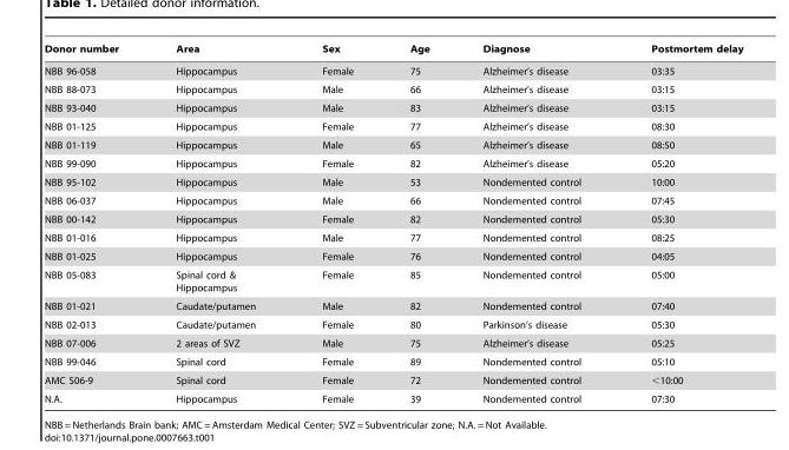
<table><thead><tr><td>Donor number</td><td>Area</td><td>Sex</td><td>Age</td><td>Diagnose</td><td>Postmortem delay</td></tr></thead><tbody><tr><td>NBB 96-058</td><td>Hippocampus</td><td>Female</td><td>75</td><td>Alzheimer’s disease</td><td>03:35</td></tr><tr><td>NBB 88-073</td><td>Hippocampus</td><td>Male</td><td>66</td><td>Alzheimer’s disease</td><td>03:15</td></tr><tr><td>NBB 93-040</td><td>Hippocampus</td><td>Male</td><td>83</td><td>Alzheimer’s disease</td><td>03:15</td></tr><tr><td>NBB 01-125</td><td>Hippocampus</td><td>Female</td><td>77</td><td>Alzheimer’s disease</td><td>08:30</td></tr><tr><td>NBB 01-119</td><td>Hippocampus</td><td>Male</td><td>65</td><td>Alzheimer’s disease</td><td>08:50</td></tr><tr><td>NBB 99-090</td><td>Hippocampus</td><td>Female</td><td>82</td><td>Alzheimer’s disease</td><td>05:20</td></tr><tr><td>NBB 95-102</td><td>Hippocampus</td><td>Male</td><td>53</td><td>Nondemented control</td><td>10:00</td></tr><tr><td>NBB 06-037</td><td>Hippocampus</td><td>Male</td><td>66</td><td>Nondemented control</td><td>07:45</td></tr><tr><td>NBB 00-142</td><td>Hippocampus</td><td>Female</td><td>82</td><td>Nondemented control</td><td>05:30</td></tr><tr><td>NBB 01-016</td><td>Hippocampus</td><td>Male</td><td>77</td><td>Nondemented control</td><td>08:25</td></tr><tr><td>NBB 01-025</td><td>Hippocampus</td><td>Female</td><td>76</td><td>Nondemented control</td><td>04:05</td></tr><tr><td>NBB 05-083</td><td>Spinal cord &amp; Hippocampus</td><td>Female</td><td>85</td><td>Nondemented control</td><td>05:00</td></tr><tr><td>NBB 01-021</td><td>Caudate/putamen</td><td>Male</td><td>82</td><td>Nondemented control</td><td>07:40</td></tr><tr><td>NBB 02-013</td><td>Caudate/putamen</td><td>Female</td><td>80</td><td>Parkinson’s disease</td><td>05:30</td></tr><tr><td>NBB 07-006</td><td>2 areas of SVZ</td><td>Male</td><td>75</td><td>Alzheimer’s disease</td><td>05:25</td></tr><tr><td>NBB 99-046</td><td>Spinal cord</td><td>Female</td><td>89</td><td>Nondemented control</td><td>05:10</td></tr><tr><td>AMC S06-9</td><td>Spinal cord</td><td>Female</td><td>72</td><td>Nondemented control</td><td>&lt;10:00</td></tr><tr><td>N.A.</td><td>Hippocampus</td><td>Female</td><td>39</td><td>Nondemented control</td><td>07:30</td></tr></tbody></table>